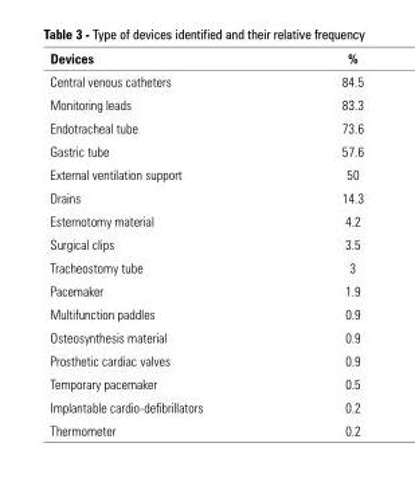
<table><thead><tr><td>Devices</td><td>%</td></tr></thead><tbody><tr><td>Central venous catheters</td><td>84.5</td></tr><tr><td>Monitoring leads</td><td>83.3</td></tr><tr><td>Endotracheal tube</td><td>73.6</td></tr><tr><td>Gastric tube</td><td>57.6</td></tr><tr><td>External ventilation support</td><td>50</td></tr><tr><td>Drains</td><td>14.3</td></tr><tr><td>Esternotomy material</td><td>4.2</td></tr><tr><td>Surgical clips</td><td>3.5</td></tr><tr><td>Tracheostomy tube</td><td>3</td></tr><tr><td>Pacemaker</td><td>1.9</td></tr><tr><td>Multifunction paddles</td><td>0.9</td></tr><tr><td>Osteosynthesis material</td><td>0.9</td></tr><tr><td>Prosthetic cardiac valves</td><td>0.9</td></tr><tr><td>Temporary pacemaker</td><td>0.5</td></tr><tr><td>Implantable cardio-defibrillators</td><td>0.2</td></tr><tr><td>Thermometer</td><td>0.2</td></tr></tbody></table>